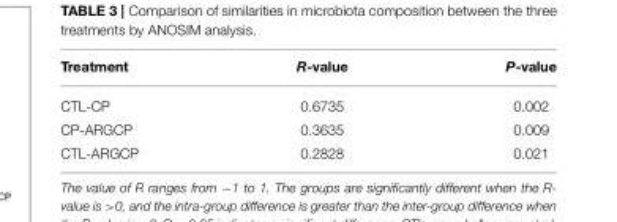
<table><thead><tr><td>Treatment</td><td>R-value</td><td>P-value</td></tr></thead><tbody><tr><td>CTL-CP</td><td>0.6735</td><td>0.002</td></tr><tr><td>CP-ARGCP</td><td>0.3635</td><td>0.009</td></tr><tr><td>CTL-ARGCP</td><td>0.2828</td><td>0.021</td></tr></tbody></table>